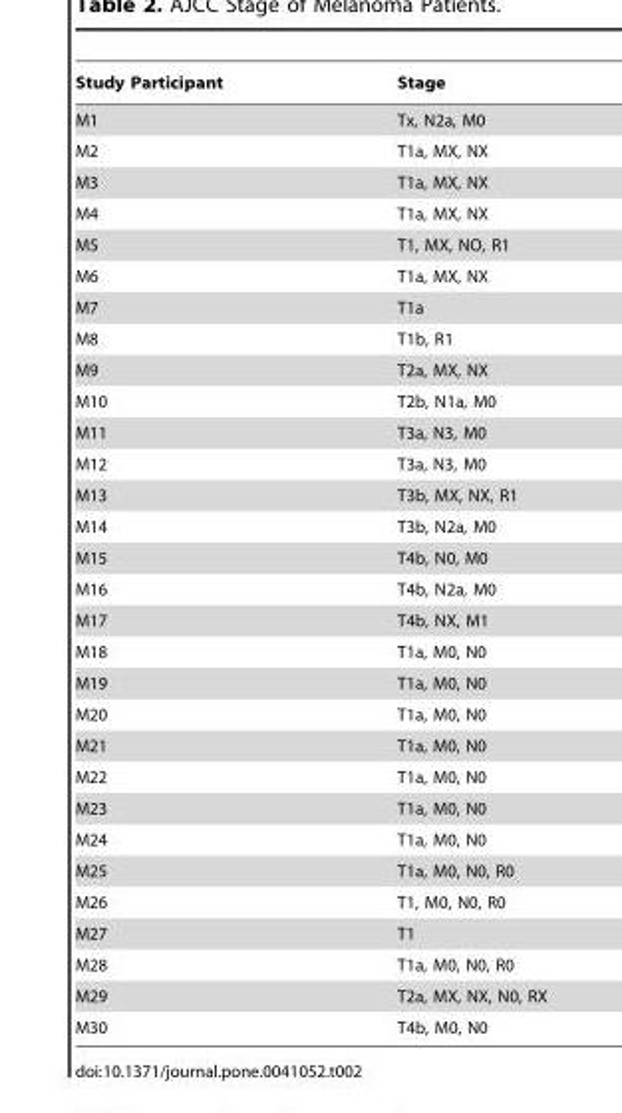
<table><thead><tr><td>Study Participant</td><td>Stage</td></tr></thead><tbody><tr><td>M1</td><td>Tx, N2a, M0</td></tr><tr><td>M2</td><td>T1a, MX, NX</td></tr><tr><td>M3</td><td>T1a, MX, NX</td></tr><tr><td>M4</td><td>T1a, MX, NX</td></tr><tr><td>M5</td><td>T1, MX, NO, R1</td></tr><tr><td>M6</td><td>T1a, MX, NX</td></tr><tr><td>M7</td><td>T1a</td></tr><tr><td>M8</td><td>T1b, R1</td></tr><tr><td>M9</td><td>T2a, MX, NX</td></tr><tr><td>M10</td><td>T2b, N1a, M0</td></tr><tr><td>M11</td><td>T3a, N3, M0</td></tr><tr><td>M12</td><td>T3a, N3, M0</td></tr><tr><td>M13</td><td>T3b, MX, NX, R1</td></tr><tr><td>M14</td><td>T3b, N2a, M0</td></tr><tr><td>M15</td><td>T4b, N0, M0</td></tr><tr><td>M16</td><td>T4b, N2a, M0</td></tr><tr><td>M17</td><td>T4b, NX, M1</td></tr><tr><td>M18</td><td>T1a, M0, N0</td></tr><tr><td>M19</td><td>T1a, M0, N0</td></tr><tr><td>M20</td><td>T1a, M0, N0</td></tr><tr><td>M21</td><td>T1a, M0, N0</td></tr><tr><td>M22</td><td>T1a, M0, N0</td></tr><tr><td>M23</td><td>T1a, M0, N0</td></tr><tr><td>M24</td><td>T1a, M0, N0</td></tr><tr><td>M25</td><td>T1a, M0, N0, R0</td></tr><tr><td>M26</td><td>T1, M0, N0, R0</td></tr><tr><td>M27</td><td>T1</td></tr><tr><td>M28</td><td>T1a, M0, N0, R0</td></tr><tr><td>M29</td><td>T2a, MX, NX, N0, RX</td></tr><tr><td>M30</td><td>T4b, M0, N0</td></tr></tbody></table>